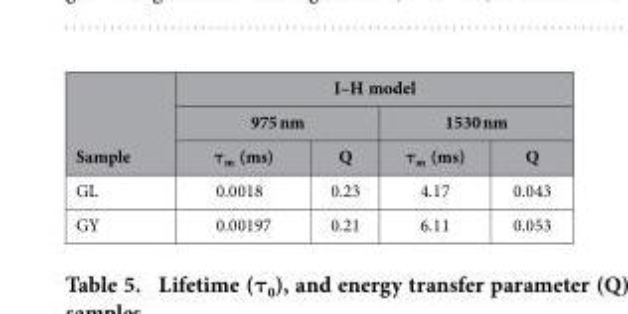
<table><thead><tr><td rowspan="3">Sample</td><td colspan="4">I–H model</td></tr><tr><td colspan="2">975 nm</td><td colspan="2">1530 nm</td></tr><tr><td>τ<sub>m</sub> (ms)</td><td>Q</td><td>τ<sub>m</sub> (ms)</td><td>Q</td></tr></thead><tbody><tr><td>GL</td><td>0.0018</td><td>0.23</td><td>4.17</td><td>0.043</td></tr><tr><td>GY</td><td>0.00197</td><td>0.21</td><td>6.11</td><td>0.053</td></tr></tbody></table>